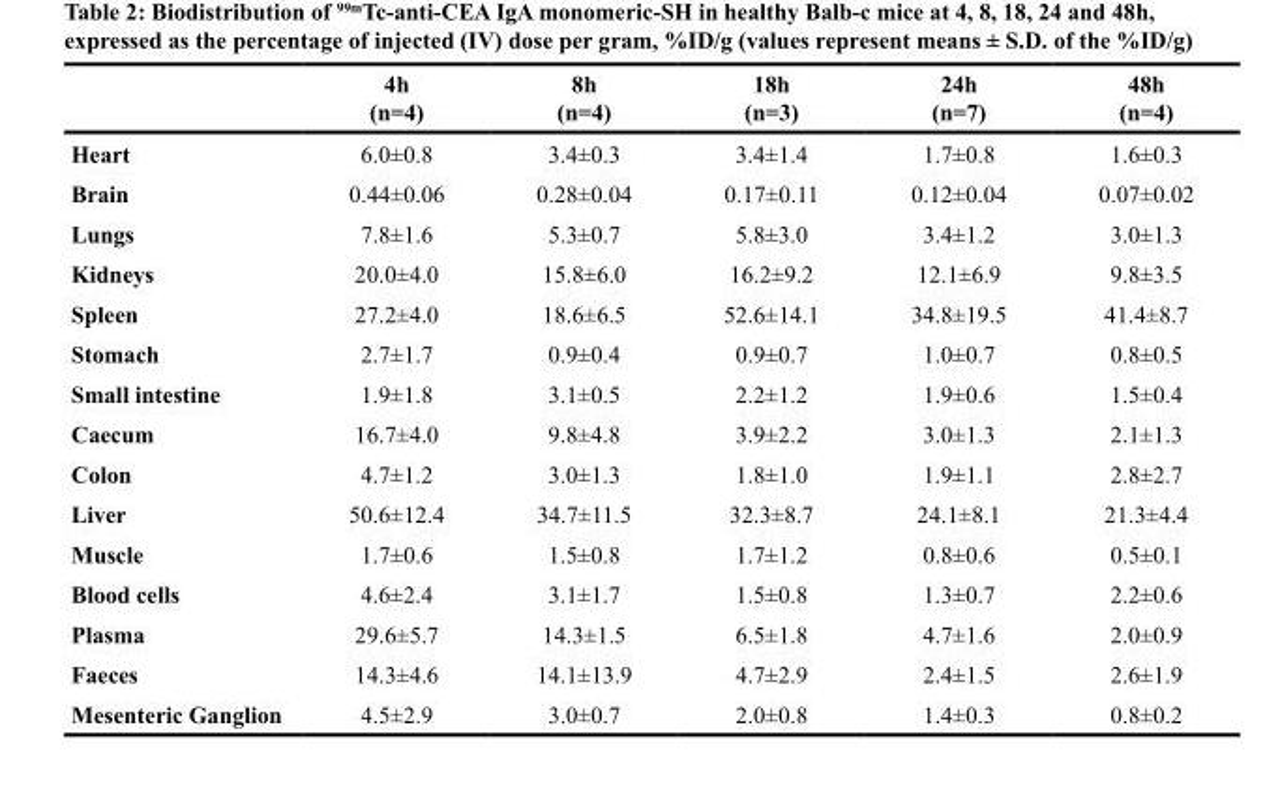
<table><thead><tr><td rowspan="2"></td><td rowspan="2">4h (n=4)</td><td rowspan="2">8h (n=4)</td><td rowspan="2">18h (n=3)</td><td rowspan="2">24h (n=7)</td><td rowspan="2">48h (n=4)</td></tr><tr></tr></thead><tbody><tr><td>Heart</td><td>6.0±0.8</td><td>3.4±0.3</td><td>3.4±1.4</td><td>1.7±0.8</td><td>1.6±0.3</td></tr><tr><td>Brain</td><td>0.44±0.06</td><td>0.28±0.04</td><td>0.17±0.11</td><td>0.12±0.04</td><td>0.07±0.02</td></tr><tr><td>Lungs</td><td>7.8±1.6</td><td>5.3±0.7</td><td>5.8±3.0</td><td>3.4±1.2</td><td>3.0±1.3</td></tr><tr><td>Kidneys</td><td>20.0±4.0</td><td>15.8±6.0</td><td>16.2±9.2</td><td>12.1±6.9</td><td>9.8±3.5</td></tr><tr><td>Spleen</td><td>27.2±4.0</td><td>18.6±6.5</td><td>52.6±14.1</td><td>34.8±19.5</td><td>41.4±8.7</td></tr><tr><td>Stomach</td><td>2.7±1.7</td><td>0.9±0.4</td><td>0.9±0.7</td><td>1.0±0.7</td><td>0.8±0.5</td></tr><tr><td>Small intestine</td><td>1.9±1.8</td><td>3.1±0.5</td><td>2.2±1.2</td><td>1.9±0.6</td><td>1.5±0.4</td></tr><tr><td>Caecum</td><td>16.7±4.0</td><td>9.8±4.8</td><td>3.9±2.2</td><td>3.0±1.3</td><td>2.1±1.3</td></tr><tr><td>Colon</td><td>4.7±1.2</td><td>3.0±1.3</td><td>1.8±1.0</td><td>1.9±1.1</td><td>2.8±2.7</td></tr><tr><td>Liver</td><td>50.6±12.4</td><td>34.7±11.5</td><td>32.3±8.7</td><td>24.1±8.1</td><td>21.3±4.4</td></tr><tr><td>Muscle</td><td>1.7±0.6</td><td>1.5±0.8</td><td>1.7±1.2</td><td>0.8±0.6</td><td>0.5±0.1</td></tr><tr><td>Blood cells</td><td>4.6±2.4</td><td>3.1±1.7</td><td>1.5±0.8</td><td>1.3±0.7</td><td>2.2±0.6</td></tr><tr><td>Plasma</td><td>29.6±5.7</td><td>14.3±1.5</td><td>6.5±1.8</td><td>4.7±1.6</td><td>2.0±0.9</td></tr><tr><td>Faeces</td><td>14.3±4.6</td><td>14.1±13.9</td><td>4.7±2.9</td><td>2.4±1.5</td><td>2.6±1.9</td></tr><tr><td>Mesenteric Ganglion</td><td>4.5±2.9</td><td>3.0±0.7</td><td>2.0±0.8</td><td>1.4±0.3</td><td>0.8±0.2</td></tr></tbody></table>